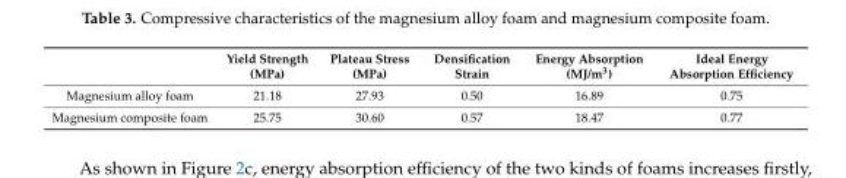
<table><thead><tr><td></td><td>Yield Strength (MPa)</td><td>Plateau Stress (MPa)</td><td>Densification Strain</td><td>Energy Absorption (MJ/m<sup>3</sup>)</td><td>Ideal Energy Absorption Efficiency</td></tr></thead><tbody><tr><td>Magnesium alloy foam</td><td>21.18</td><td>27.93</td><td>0.50</td><td>16.89</td><td>0.75</td></tr><tr><td>Magnesium composite foam</td><td>25.75</td><td>30.60</td><td>0.57</td><td>18.47</td><td>0.77</td></tr></tbody></table>